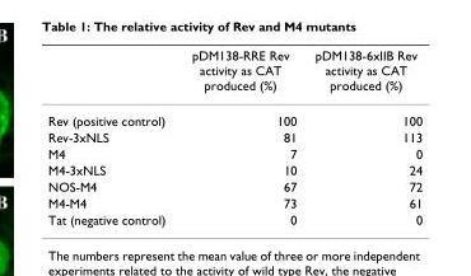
<table><thead><tr><td></td><td>pDM138-RRE Rev activity as CAT produced (%)</td><td>pDM138-6xIIB Rev activity as CAT produced (%)</td></tr></thead><tbody><tr><td>Rev (positive control)</td><td>100</td><td>100</td></tr><tr><td>Rev-3xNLS</td><td>81</td><td>113</td></tr><tr><td>M4</td><td>7</td><td>0</td></tr><tr><td>M4-3xNLS</td><td>10</td><td>24</td></tr><tr><td>NOS-M4</td><td>67</td><td>72</td></tr><tr><td>M4-M4</td><td>73</td><td>61</td></tr><tr><td>Tat (negative control)</td><td>0</td><td>0</td></tr></tbody></table>